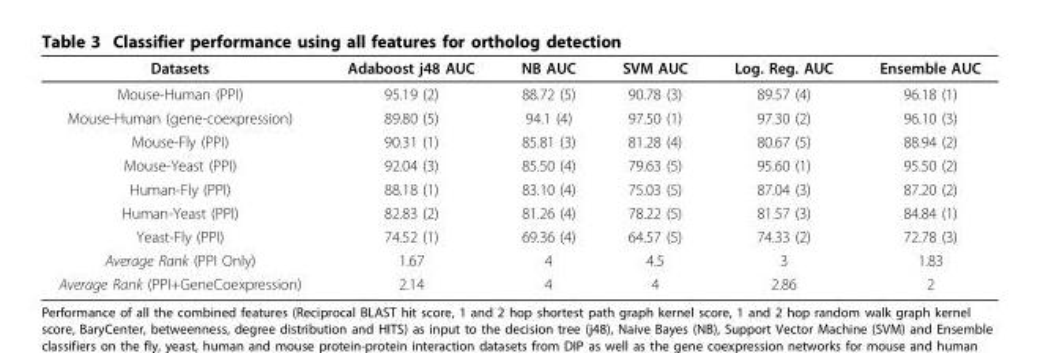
<table><thead><tr><td>Datasets</td><td>Adaboost j48 AUC</td><td>NB AUC</td><td>SVM AUC</td><td>Log. Reg. AUC</td><td>Ensemble AUC</td></tr></thead><tbody><tr><td>Mouse-Human (PPI)</td><td>95.19 (2)</td><td>88.72 (5)</td><td>90.78 (3)</td><td>89.57 (4)</td><td>96.18 (1)</td></tr><tr><td>Mouse-Human (gene-coexpression)</td><td>89.80 (5)</td><td>94.1 (4)</td><td>97.50 (1)</td><td>97.30 (2)</td><td>96.10 (3)</td></tr><tr><td>Mouse-Fly (PPI)</td><td>90.31 (1)</td><td>85.81 (3)</td><td>81.28 (4)</td><td>80.67 (5)</td><td>88.94 (2)</td></tr><tr><td>Mouse-Yeast (PPI)</td><td>92.04 (3)</td><td>85.50 (4)</td><td>79.63 (5)</td><td>95.60 (1)</td><td>95.50 (2)</td></tr><tr><td>Human-Fly (PPI)</td><td>88.18 (1)</td><td>83.10 (4)</td><td>75.03 (5)</td><td>87.04 (3)</td><td>87.20 (2)</td></tr><tr><td>Human-Yeast (PPI)</td><td>82.83 (2)</td><td>81.26 (4)</td><td>78.22 (5)</td><td>81.57 (3)</td><td>84.84 (1)</td></tr><tr><td>Yeast-Fly (PPI)</td><td>74.52 (1)</td><td>69.36 (4)</td><td>64.57 (5)</td><td>74.33 (2)</td><td>72.78 (3)</td></tr><tr><td>Average Rank (PPI Only)</td><td>1.67</td><td>4</td><td>4.5</td><td>3</td><td>1.83</td></tr><tr><td>Average Rank (PPI+GeneCoexpression)</td><td>2.14</td><td>4</td><td>4</td><td>2.86</td><td>2</td></tr></tbody></table>